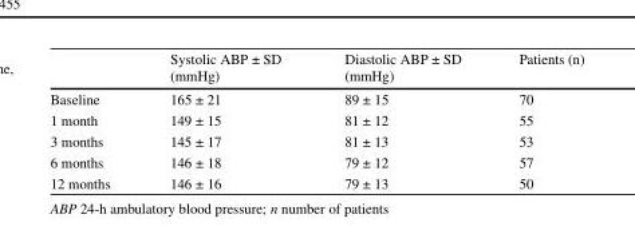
<table><thead><tr><td></td><td>Systolic ABP ± SD (mmHg)</td><td>Diastolic ABP ± SD (mmHg)</td><td>Patients (n)</td></tr></thead><tbody><tr><td>Baseline</td><td>165 ± 21</td><td>89 ± 15</td><td>70</td></tr><tr><td>1 month</td><td>149 ± 15</td><td>81 ± 12</td><td>55</td></tr><tr><td>3 months</td><td>145 ± 17</td><td>81 ± 13</td><td>53</td></tr><tr><td>6 months</td><td>146 ± 18</td><td>79 ± 12</td><td>57</td></tr><tr><td>12 months</td><td>146 ± 16</td><td>79 ± 13</td><td>50</td></tr></tbody></table>